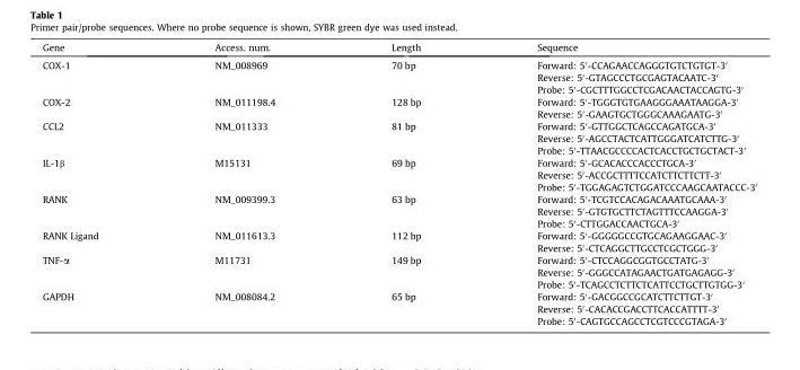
<table><thead><tr><td>Gene</td><td>Access. num.</td><td>Length</td><td>Sequence</td></tr></thead><tbody><tr><td rowspan="3">COX-1</td><td rowspan="3">NM_008969</td><td rowspan="3">70 bp</td><td>Forward: 5′-CCAGAACCAGGGTGTCTGTGT-3′</td></tr><tr><td>Reverse: 5′-GTAGCCCTGCGAGTACAATC-3′</td></tr><tr><td>Probe: 5′-CGCTTTGGCCTCGACAACTACCAGTG-3′</td></tr><tr><td rowspan="2">COX-2</td><td rowspan="2">NM_011198.4</td><td rowspan="2">128 bp</td><td>Forward: 5′-TGGGTGTGAAGGGAAATAAGGA-3′</td></tr><tr><td>Reverse: 5′-GAAGTGCTGGGCAAAGAATG-3′</td></tr><tr><td rowspan="3">CCL2</td><td rowspan="3">NM_011333</td><td rowspan="3">81 bp</td><td>Forward: 5′-GTTGGCTCAGCCAGATGCA-3′</td></tr><tr><td>Reverse: 5′-AGCCTACTCATTGGGATCATCTTG-3′</td></tr><tr><td>Probe: 5′-TTAACGCCCCACTCACCTGCTGCTACT-3′</td></tr><tr><td rowspan="3">IL-1β</td><td rowspan="3">M15131</td><td rowspan="3">69 bp</td><td>Forward: 5′-GCACACCCACCCTGCA-3′</td></tr><tr><td>Reverse: 5′-ACCGCTTTTCCATCTTCTTCTT-3′</td></tr><tr><td>Probe: 5′-TGGAGAGTCTGGATCCCAAGCAATACCC-3′</td></tr><tr><td rowspan="3">RANK</td><td rowspan="3">NM_009399.3</td><td rowspan="3">63 bp</td><td>Forward: 5′-TCGTCCACAGACAAATGCAAA-3′</td></tr><tr><td>Reverse: 5′-GTGTGCTTCTAGTTTCCAAGGA-3′</td></tr><tr><td>Probe: 5′-CTTGGACCAACTGCA-3′</td></tr><tr><td rowspan="2">RANK Ligand</td><td rowspan="2">NM_011613.3</td><td rowspan="2">112 bp</td><td>Forward: 5′-GGGGGCCGTGCAGAAGGAAC-3′</td></tr><tr><td>Reverse: 5′-CTCAGGCTTGCCTCGCTGGG-3′</td></tr><tr><td rowspan="3">TNF-α</td><td rowspan="3">M11731</td><td rowspan="3">149 bp</td><td>Forward: 5′-CTCCAGGCGGTGCCTATG-3′</td></tr><tr><td>Reverse: 5′-GGGCCATAGAACTGATGAGAGG-3′</td></tr><tr><td>Probe: 5′-TCAGCCTCTTCTCATTCCTGCTTGTGG-3′</td></tr><tr><td rowspan="3">GAPDH</td><td rowspan="3">NM_008084.2</td><td rowspan="3">65 bp</td><td>Forward: 5′-GACGGCCGCATCTTCTTGT-3′</td></tr><tr><td>Reverse: 5′-CACACCGACCTTCACCATTTT-3′</td></tr><tr><td>Probe: 5′-CAGTGCCAGCCTCGTCCCGTAGA-3′</td></tr></tbody></table>